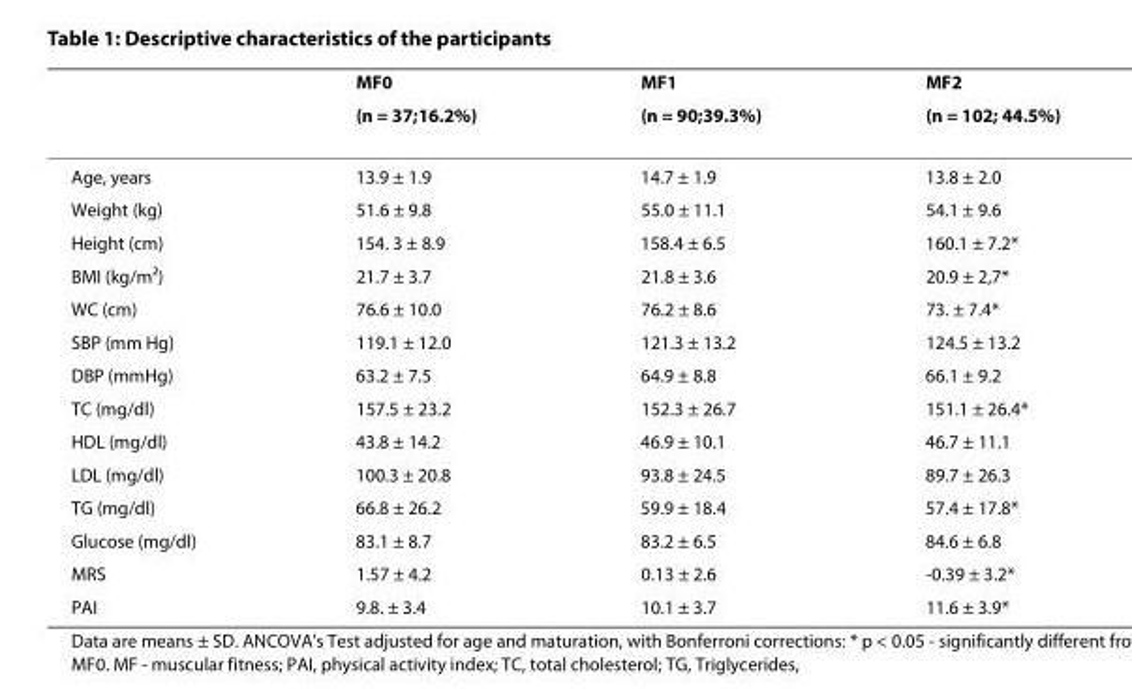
<table><thead><tr><td rowspan="2"></td><td rowspan="2">MF0 (n = 37;16.2%)</td><td rowspan="2">MF1 (n = 90;39.3%)</td><td rowspan="2">MF2 (n = 102; 44.5%)</td></tr><tr></tr></thead><tbody><tr><td>Age, years</td><td>13.9 ± 1.9</td><td>14.7 ± 1.9</td><td>13.8 ± 2.0</td></tr><tr><td>Weight (kg)</td><td>51.6 ± 9.8</td><td>55.0 ± 11.1</td><td>54.1 ± 9.6</td></tr><tr><td>Height (cm)</td><td>154. 3 ± 8.9</td><td>158.4 ± 6.5</td><td>160.1 ± 7.2*</td></tr><tr><td>BMI (kg/m<sup>2</sup>)</td><td>21.7 ± 3.7</td><td>21.8 ± 3.6</td><td>20.9 ± 2,7*</td></tr><tr><td>WC (cm)</td><td>76.6 ± 10.0</td><td>76.2 ± 8.6</td><td>73. ± 7.4*</td></tr><tr><td>SBP (mm Hg)</td><td>119.1 ± 12.0</td><td>121.3 ± 13.2</td><td>124.5 ± 13.2</td></tr><tr><td>DBP (mmHg)</td><td>63.2 ± 7.5</td><td>64.9 ± 8.8</td><td>66.1 ± 9.2</td></tr><tr><td>TC (mg/dl)</td><td>157.5 ± 23.2</td><td>152.3 ± 26.7</td><td>151.1 ± 26.4*</td></tr><tr><td>HDL (mg/dl)</td><td>43.8 ± 14.2</td><td>46.9 ± 10.1</td><td>46.7 ± 11.1</td></tr><tr><td>LDL (mg/dl)</td><td>100.3 ± 20.8</td><td>93.8 ± 24.5</td><td>89.7 ± 26.3</td></tr><tr><td>TG (mg/dl)</td><td>66.8 ± 26.2</td><td>59.9 ± 18.4</td><td>57.4 ± 17.8*</td></tr><tr><td>Glucose (mg/dl)</td><td>83.1 ± 8.7</td><td>83.2 ± 6.5</td><td>84.6 ± 6.8</td></tr><tr><td>MRS</td><td>1.57 ± 4.2</td><td>0.13 ± 2.6</td><td>-0.39 ± 3.2*</td></tr><tr><td>PAI</td><td>9.8. ± 3.4</td><td>10.1 ± 3.7</td><td>11.6 ± 3.9*</td></tr></tbody></table>